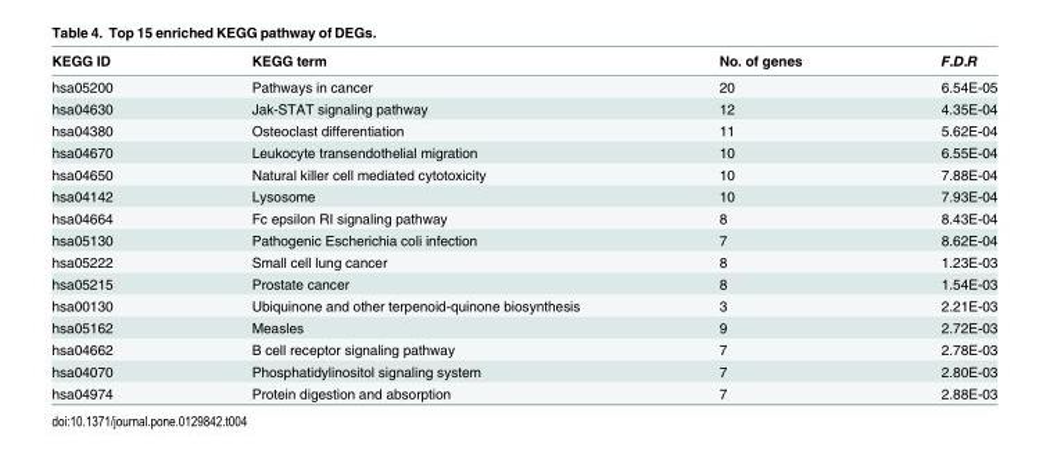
<table><thead><tr><td>KEGG ID</td><td>KEGG term</td><td>No. of genes</td><td>F.D.R</td></tr></thead><tbody><tr><td>hsa05200</td><td>Pathways in cancer</td><td>20</td><td>6.54E-05</td></tr><tr><td>hsa04630</td><td>Jak-STAT signaling pathway</td><td>12</td><td>4.35E-04</td></tr><tr><td>hsa04380</td><td>Osteoclast differentiation</td><td>11</td><td>5.62E-04</td></tr><tr><td>hsa04670</td><td>Leukocyte transendothelial migration</td><td>10</td><td>6.55E-04</td></tr><tr><td>hsa04650</td><td>Natural killer cell mediated cytotoxicity</td><td>10</td><td>7.88E-04</td></tr><tr><td>hsa04142</td><td>Lysosome</td><td>10</td><td>7.93E-04</td></tr><tr><td>hsa04664</td><td>Fc epsilon RI signaling pathway</td><td>8</td><td>8.43E-04</td></tr><tr><td>hsa05130</td><td>Pathogenic Escherichia coli infection</td><td>7</td><td>8.62E-04</td></tr><tr><td>hsa05222</td><td>Small cell lung cancer</td><td>8</td><td>1.23E-03</td></tr><tr><td>hsa05215</td><td>Prostate cancer</td><td>8</td><td>1.54E-03</td></tr><tr><td>hsa00130</td><td>Ubiquinone and other terpenoid-quinone biosynthesis</td><td>3</td><td>2.21E-03</td></tr><tr><td>hsa05162</td><td>Measles</td><td>9</td><td>2.72E-03</td></tr><tr><td>hsa04662</td><td>B cell receptor signaling pathway</td><td>7</td><td>2.78E-03</td></tr><tr><td>hsa04070</td><td>Phosphatidylinositol signaling system</td><td>7</td><td>2.80E-03</td></tr><tr><td>hsa04974</td><td>Protein digestion and absorption</td><td>7</td><td>2.88E-03</td></tr></tbody></table>